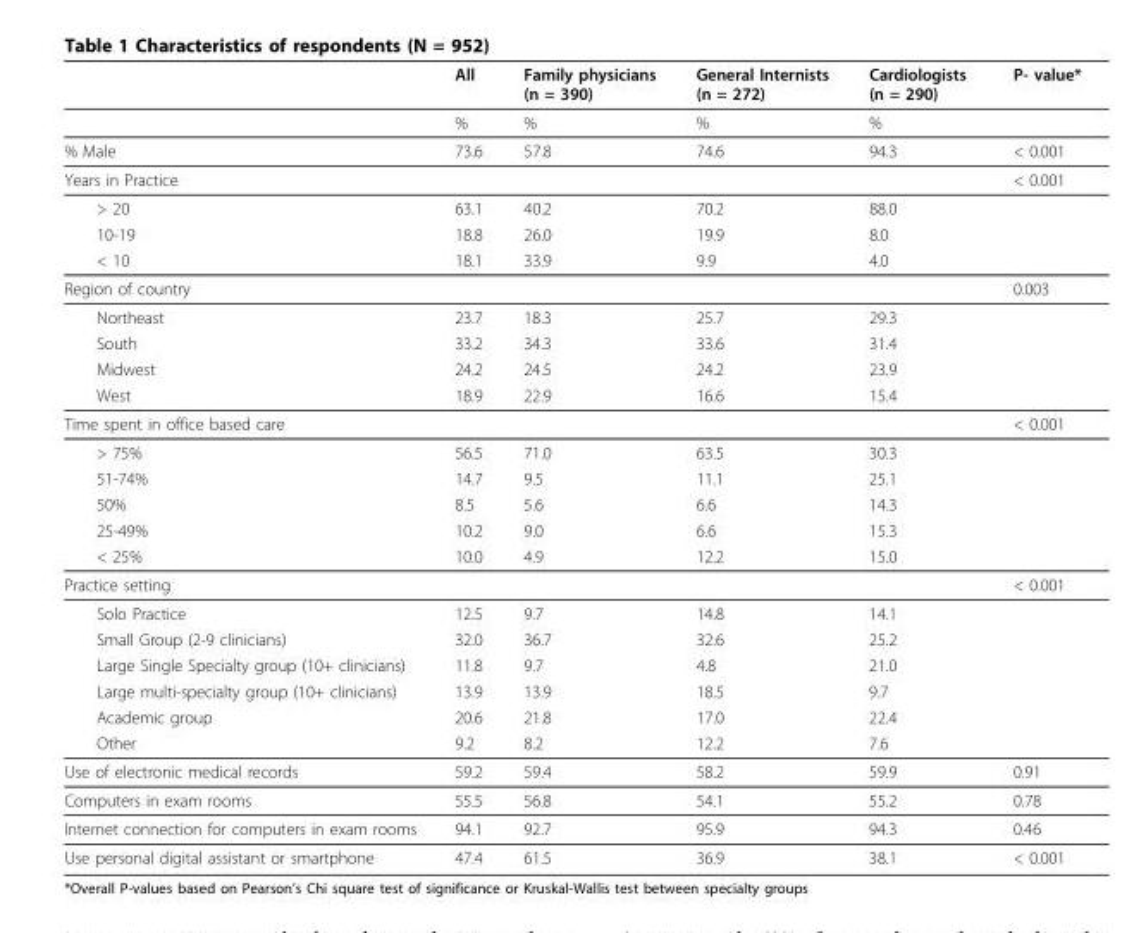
<table><thead><tr><td></td><td>All</td><td>Family physicians (n = 390)</td><td>General Internists (n = 272)</td><td>Cardiologists (n = 290)</td><td>P- value*</td></tr></thead><tbody><tr><td></td><td>%</td><td>%</td><td>%</td><td>%</td><td></td></tr><tr><td>% Male</td><td>73.6</td><td>57.8</td><td>74.6</td><td>94.3</td><td>&lt; 0.001</td></tr><tr><td>Years in Practice</td><td></td><td></td><td></td><td></td><td>&lt; 0.001</td></tr><tr><td>&gt; 20</td><td>63.1</td><td>40.2</td><td>70.2</td><td>88.0</td><td></td></tr><tr><td>10-19</td><td>18.8</td><td>26.0</td><td>19.9</td><td>8.0</td><td></td></tr><tr><td>&lt; 10</td><td>18.1</td><td>33.9</td><td>9.9</td><td>4.0</td><td></td></tr><tr><td>Region of country</td><td></td><td></td><td></td><td></td><td>0.003</td></tr><tr><td>Northeast</td><td>23.7</td><td>18.3</td><td>25.7</td><td>29.3</td><td></td></tr><tr><td>South</td><td>33.2</td><td>34.3</td><td>33.6</td><td>31.4</td><td></td></tr><tr><td>Midwest</td><td>24.2</td><td>24.5</td><td>24.2</td><td>23.9</td><td></td></tr><tr><td>West</td><td>18.9</td><td>22.9</td><td>16.6</td><td>15.4</td><td></td></tr><tr><td>Time spent in office based care</td><td></td><td></td><td></td><td></td><td>&lt; 0.001</td></tr><tr><td>&gt; 75%</td><td>56.5</td><td>71.0</td><td>63.5</td><td>30.3</td><td></td></tr><tr><td>51-74%</td><td>14.7</td><td>9.5</td><td>11.1</td><td>25.1</td><td></td></tr><tr><td>50%</td><td>8.5</td><td>5.6</td><td>6.6</td><td>14.3</td><td></td></tr><tr><td>25-49%</td><td>10.2</td><td>9.0</td><td>6.6</td><td>15.3</td><td></td></tr><tr><td>&lt; 25%</td><td>10.0</td><td>4.9</td><td>12.2</td><td>15.0</td><td></td></tr><tr><td>Practice setting</td><td></td><td></td><td></td><td></td><td>&lt; 0.001</td></tr><tr><td>Solo Practice</td><td>12.5</td><td>9.7</td><td>14.8</td><td>14.1</td><td></td></tr><tr><td>Small Group (2-9 clinicians)</td><td>32.0</td><td>36.7</td><td>32.6</td><td>25.2</td><td></td></tr><tr><td>Large Single Specialty group (10+ clinicians)</td><td>11.8</td><td>9.7</td><td>4.8</td><td>21.0</td><td></td></tr><tr><td>Large multi-specialty group (10+ clinicians)</td><td>13.9</td><td>13.9</td><td>18.5</td><td>9.7</td><td></td></tr><tr><td>Academic group</td><td>20.6</td><td>21.8</td><td>17.0</td><td>22.4</td><td></td></tr><tr><td>Other</td><td>9.2</td><td>8.2</td><td>12.2</td><td>7.6</td><td></td></tr><tr><td>Use of electronic medical records</td><td>59.2</td><td>59.4</td><td>58.2</td><td>59.9</td><td>0.91</td></tr><tr><td>Computers in exam rooms</td><td>55.5</td><td>56.8</td><td>54.1</td><td>55.2</td><td>0.78</td></tr><tr><td>Internet connection for computers in exam rooms</td><td>94.1</td><td>92.7</td><td>95.9</td><td>94.3</td><td>0.46</td></tr><tr><td>Use personal digital assistant or smartphone</td><td>47.4</td><td>61.5</td><td>36.9</td><td>38.1</td><td>&lt; 0.001</td></tr></tbody></table>